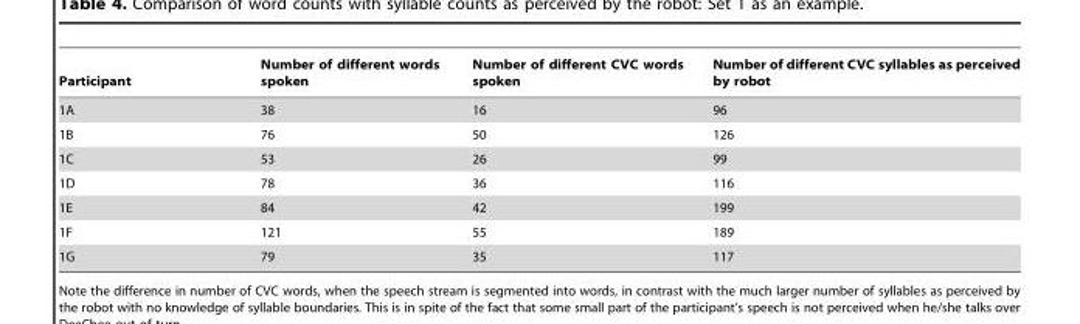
<table><thead><tr><td>Participant</td><td>Number of different words spoken</td><td>Number of different CVC words spoken</td><td>Number of different CVC syllables as perceived by robot</td></tr></thead><tbody><tr><td>1A</td><td>38</td><td>16</td><td>96</td></tr><tr><td>1B</td><td>76</td><td>50</td><td>126</td></tr><tr><td>1C</td><td>53</td><td>26</td><td>99</td></tr><tr><td>1D</td><td>78</td><td>36</td><td>116</td></tr><tr><td>1E</td><td>84</td><td>42</td><td>199</td></tr><tr><td>1F</td><td>121</td><td>55</td><td>189</td></tr><tr><td>1G</td><td>79</td><td>35</td><td>117</td></tr></tbody></table>